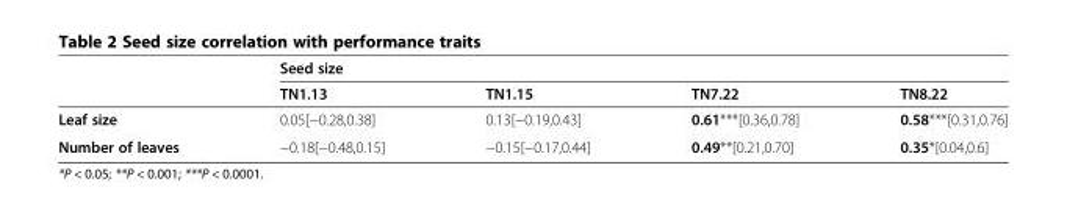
<table><thead><tr><td rowspan="2"></td><td colspan="4">Seed size</td></tr><tr><td>TN1.13</td><td>TN1.15</td><td>TN7.22</td><td>TN8.22</td></tr></thead><tbody><tr><td>Leaf size</td><td>0.05[−0.28,0.38]</td><td>0.13[−0.19,0.43]</td><td>0.61***[0.36,0.78]</td><td>0.58***[0.31,0.76]</td></tr><tr><td>Number of leaves</td><td>−0.18[−0.48,0.15]</td><td>−0.15[−0.17,0.44]</td><td>0.49**[0.21,0.70]</td><td>0.35*[0.04,0.6]</td></tr></tbody></table>